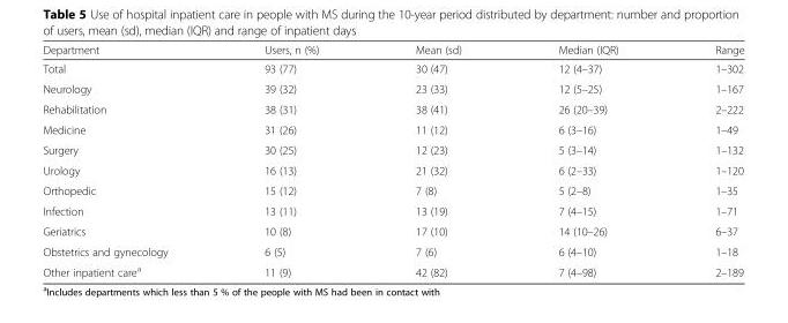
<table><thead><tr><td>Department</td><td>Users, n (%)</td><td>Mean (sd)</td><td>Median (IQR)</td><td>Range</td></tr></thead><tbody><tr><td>Total</td><td>93 (77)</td><td>30 (47)</td><td>12 (4–37)</td><td>1–302</td></tr><tr><td>Neurology</td><td>39 (32)</td><td>23 (33)</td><td>12 (5–25)</td><td>1–167</td></tr><tr><td>Rehabilitation</td><td>38 (31)</td><td>38 (41)</td><td>26 (20–39)</td><td>2–222</td></tr><tr><td>Medicine</td><td>31 (26)</td><td>11 (12)</td><td>6 (3–16)</td><td>1–49</td></tr><tr><td>Surgery</td><td>30 (25)</td><td>12 (23)</td><td>5 (3–14)</td><td>1–132</td></tr><tr><td>Urology</td><td>16 (13)</td><td>21 (32)</td><td>6 (2–33)</td><td>1–120</td></tr><tr><td>Orthopedic</td><td>15 (12)</td><td>7 (8)</td><td>5 (2–8)</td><td>1–35</td></tr><tr><td>Infection</td><td>13 (11)</td><td>13 (19)</td><td>7 (4–15)</td><td>1–71</td></tr><tr><td>Geriatrics</td><td>10 (8)</td><td>17 (10)</td><td>14 (10–26)</td><td>6–37</td></tr><tr><td>Obstetrics and gynecology</td><td>6 (5)</td><td>7 (6)</td><td>6 (4–10)</td><td>1–18</td></tr><tr><td>Other inpatient care<sup>a</sup></td><td>11 (9)</td><td>42 (82)</td><td>7 (4–98)</td><td>2–189</td></tr></tbody></table>